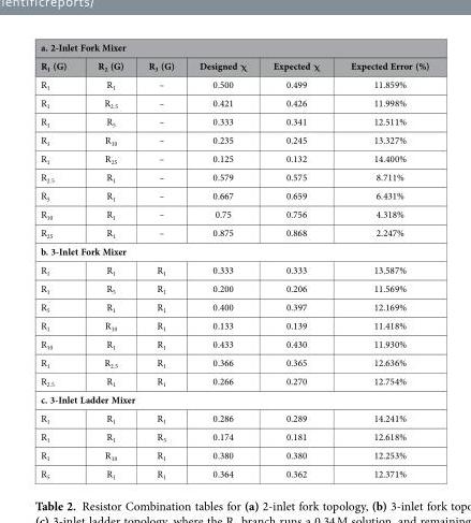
<table><thead><tr><td colspan="6">a. 2-Inlet Fork Mixer</td></tr><tr><td>R<sub>1</sub> (G)</td><td>R<sub>2</sub> (G)</td><td>R<sub>3</sub> (G)</td><td>Designed χ</td><td>Expected χ</td><td>Expected Error (%)</td></tr></thead><tbody><tr><td>R<sub>1</sub></td><td>R<sub>1</sub></td><td>–</td><td>0.500</td><td>0.499</td><td>11.859%</td></tr><tr><td>R<sub>1</sub></td><td>R<sub>2.5</sub></td><td>–</td><td>0.421</td><td>0.426</td><td>11.998%</td></tr><tr><td>R<sub>1</sub></td><td>R<sub>5</sub></td><td>–</td><td>0.333</td><td>0.341</td><td>12.511%</td></tr><tr><td>R<sub>1</sub></td><td>R<sub>10</sub></td><td>–</td><td>0.235</td><td>0.245</td><td>13.327%</td></tr><tr><td>R<sub>1</sub></td><td>R<sub>25</sub></td><td>–</td><td>0.125</td><td>0.132</td><td>14.400%</td></tr><tr><td>R<sub>2.5</sub></td><td>R<sub>1</sub></td><td>–</td><td>0.579</td><td>0.575</td><td>8.711%</td></tr><tr><td>R<sub>5</sub></td><td>R<sub>1</sub></td><td>–</td><td>0.667</td><td>0.659</td><td>6.431%</td></tr><tr><td>R<sub>10</sub></td><td>R<sub>1</sub></td><td>–</td><td>0.75</td><td>0.756</td><td>4.318%</td></tr><tr><td>R<sub>25</sub></td><td>R<sub>1</sub></td><td>–</td><td>0.875</td><td>0.868</td><td>2.247%</td></tr><tr><td colspan="6">b. 3-Inlet Fork Mixer</td></tr><tr><td>R<sub>1</sub></td><td>R<sub>1</sub></td><td>R<sub>1</sub></td><td>0.333</td><td>0.333</td><td>13.587%</td></tr><tr><td>R<sub>1</sub></td><td>R<sub>5</sub></td><td>R<sub>1</sub></td><td>0.200</td><td>0.206</td><td>11.569%</td></tr><tr><td>R<sub>5</sub></td><td>R<sub>1</sub></td><td>R<sub>1</sub></td><td>0.400</td><td>0.397</td><td>12.169%</td></tr><tr><td>R<sub>1</sub></td><td>R<sub>10</sub></td><td>R<sub>1</sub></td><td>0.133</td><td>0.139</td><td>11.418%</td></tr><tr><td>R<sub>10</sub></td><td>R<sub>1</sub></td><td>R<sub>1</sub></td><td>0.433</td><td>0.430</td><td>11.930%</td></tr><tr><td>R<sub>1</sub></td><td>R<sub>2.5</sub></td><td>R<sub>1</sub></td><td>0.366</td><td>0.365</td><td>12.636%</td></tr><tr><td>R<sub>2.5</sub></td><td>R<sub>1</sub></td><td>R<sub>1</sub></td><td>0.266</td><td>0.270</td><td>12.754%</td></tr><tr><td colspan="6">c. 3-Inlet Ladder Mixer</td></tr><tr><td>R<sub>1</sub></td><td>R<sub>1</sub></td><td>R<sub>1</sub></td><td>0.286</td><td>0.289</td><td>14.241%</td></tr><tr><td>R<sub>1</sub></td><td>R<sub>1</sub></td><td>R<sub>5</sub></td><td>0.174</td><td>0.181</td><td>12.618%</td></tr><tr><td>R<sub>1</sub></td><td>R<sub>10</sub></td><td>R<sub>1</sub></td><td>0.380</td><td>0.380</td><td>12.253%</td></tr><tr><td>R<sub>5</sub></td><td>R<sub>1</sub></td><td>R<sub>1</sub></td><td>0.364</td><td>0.362</td><td>12.371%</td></tr></tbody></table>